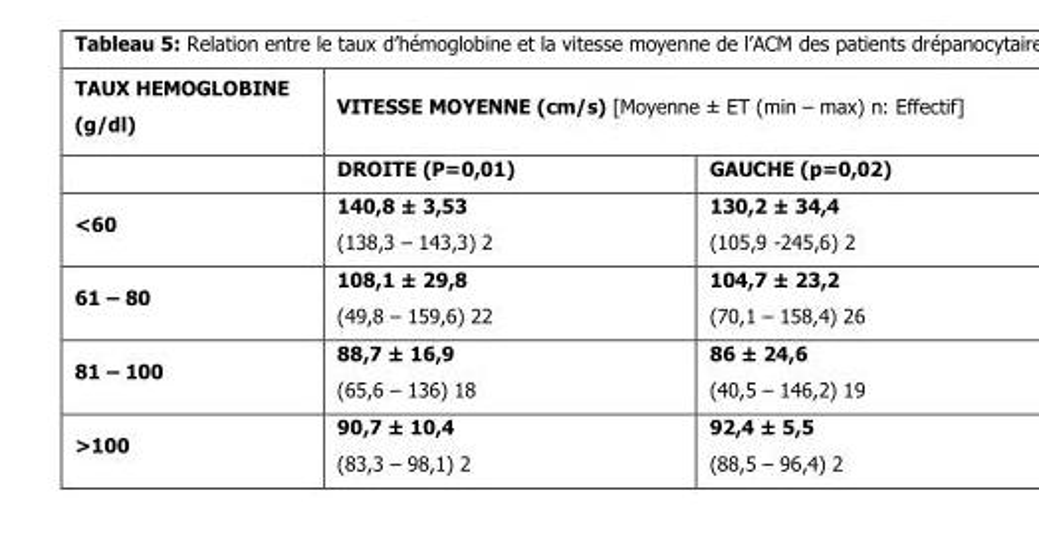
<table><thead><tr><td rowspan="2">TAUX HEMOGLOBINE (g/dl)</td><td colspan="2">VITESSE MOYENNE (cm/s) [Moyenne ± ET (min – max) n: Effectif]</td></tr><tr><td>DROITE (P=0,01)</td><td>GAUCHE (p=0,02)</td></tr></thead><tbody><tr><td>&lt;60</td><td>140,8 ± 3,53 (138,3 – 143,3) 2</td><td>130,2 ± 34,4 (105,9 -245,6) 2</td></tr><tr><td>61 – 80</td><td>108,1 ± 29,8 (49,8 – 159,6) 22</td><td>104,7 ± 23,2 (70,1 – 158,4) 26</td></tr><tr><td>81 – 100</td><td>88,7 ± 16,9 (65,6 – 136) 18</td><td>86 ± 24,6 (40,5 – 146,2) 19</td></tr><tr><td>&gt;100</td><td>90,7 ± 10,4 (83,3 – 98,1) 2</td><td>92,4 ± 5,5 (88,5 – 96,4) 2</td></tr></tbody></table>